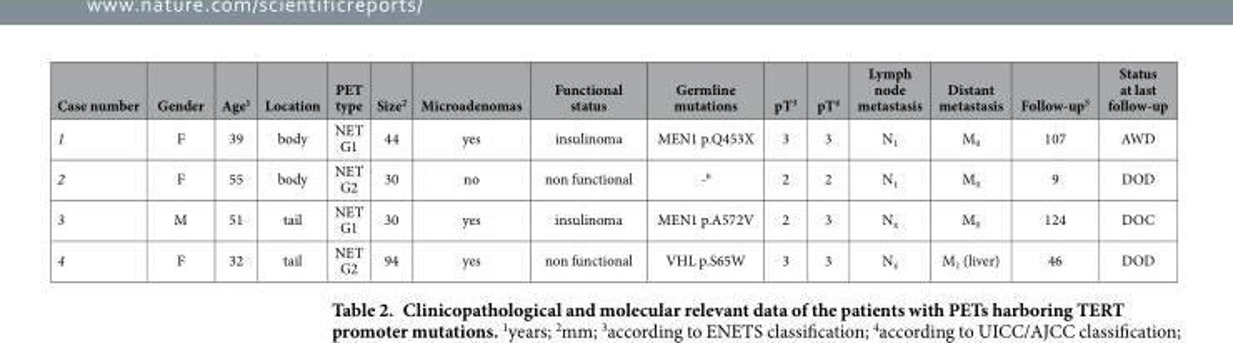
<table><thead><tr><td>Case number</td><td>Gender</td><td>Age<sup>1</sup></td><td>Location</td><td>PET type</td><td>Size<sup>2</sup></td><td>Microadenomas</td><td>Functional status</td><td>Germline mutations</td><td>pT<sup>3</sup></td><td>pT<sup>4</sup></td><td>Lymph node metastasis</td><td>Distant metastasis</td><td>Follow-up<sup>5</sup></td><td>Status at last follow-up</td></tr></thead><tbody><tr><td>1</td><td>F</td><td>39</td><td>body</td><td>NET G1</td><td>44</td><td>yes</td><td>insulinoma</td><td>MEN1 p.Q453X</td><td>3</td><td>3</td><td>N<sub>1</sub></td><td>M<sub>0</sub></td><td>107</td><td>AWD</td></tr><tr><td>2</td><td>F</td><td>55</td><td>body</td><td>NET G2</td><td>30</td><td>no</td><td>non functional</td><td>-<sup>6</sup></td><td>2</td><td>2</td><td>N<sub>1</sub></td><td>M<sub>0</sub></td><td>9</td><td>DOD</td></tr><tr><td>3</td><td>M</td><td>51</td><td>tail</td><td>NET G1</td><td>30</td><td>yes</td><td>insulinoma</td><td>MEN1 p.A572V</td><td>2</td><td>3</td><td>N<sub>x</sub></td><td>M<sub>0</sub></td><td>124</td><td>DOC</td></tr><tr><td>4</td><td>F</td><td>32</td><td>tail</td><td>NET G2</td><td>94</td><td>yes</td><td>non functional</td><td>VHL p.S65W</td><td>3</td><td>3</td><td>N<sub>x</sub></td><td>M<sub>1</sub> (liver)</td><td>46</td><td>DOD</td></tr></tbody></table>